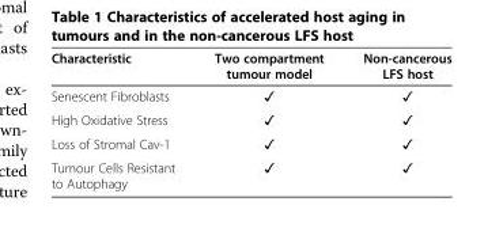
<table><thead><tr><td>Characteristic</td><td>Two compartment tumour model</td><td>Non-cancerous LFS host</td></tr></thead><tbody><tr><td>Senescent Fibroblasts</td><td>✓</td><td>✓</td></tr><tr><td>High Oxidative Stress</td><td>✓</td><td>✓</td></tr><tr><td>Loss of Stromal Cav-1</td><td>✓</td><td>✓</td></tr><tr><td>Tumour Cells Resistant to Autophagy</td><td>✓</td><td>✓</td></tr></tbody></table>